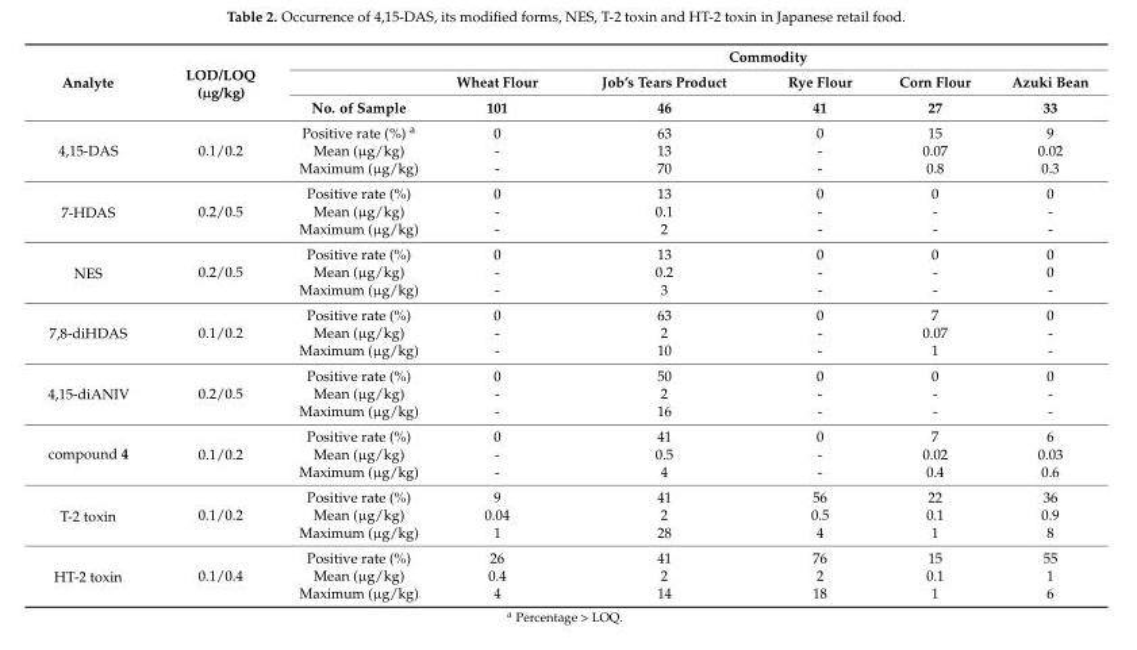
<table><thead><tr><td rowspan="3">Analyte</td><td rowspan="3">LOD/LOQ (µg/kg)</td><td rowspan="3">No. of Sample</td><td colspan="5">Commodity</td></tr><tr><td rowspan="2">Wheat Flour 101</td><td rowspan="2">Job’s Tears Product 46</td><td rowspan="2">Rye Flour 41</td><td rowspan="2">Corn Flour 27</td><td rowspan="2">Azuki Bean 33</td></tr><tr></tr></thead><tbody><tr><td rowspan="3">4,15-DAS</td><td></td><td>Positive rate (%) <sup>a</sup></td><td>0</td><td>63</td><td>0</td><td>15</td><td>9</td></tr><tr><td>0.1/0.2</td><td>Mean (µg/kg)</td><td>-</td><td>13</td><td>-</td><td>0.07</td><td>0.02</td></tr><tr><td></td><td>Maximum (µg/kg)</td><td>-</td><td>70</td><td>-</td><td>0.8</td><td>0.3</td></tr><tr><td rowspan="3">7-HDAS</td><td></td><td>Positive rate (%)</td><td>0</td><td>13</td><td>0</td><td>0</td><td>0</td></tr><tr><td>0.2/0.5</td><td>Mean (µg/kg)</td><td>-</td><td>0.1</td><td>-</td><td>-</td><td>-</td></tr><tr><td></td><td>Maximum (µg/kg)</td><td>-</td><td>2</td><td>-</td><td>-</td><td>-</td></tr><tr><td rowspan="3">NES</td><td></td><td>Positive rate (%)</td><td>0</td><td>13</td><td>0</td><td>0</td><td>0</td></tr><tr><td>0.2/0.5</td><td>Mean (µg/kg)</td><td>-</td><td>0.2</td><td>-</td><td>-</td><td>0</td></tr><tr><td></td><td>Maximum (µg/kg)</td><td>-</td><td>3</td><td>-</td><td>-</td><td>-</td></tr><tr><td rowspan="3">7,8-diHDAS</td><td></td><td>Positive rate (%)</td><td>0</td><td>63</td><td>0</td><td>7</td><td>0</td></tr><tr><td>0.1/0.2</td><td>Mean (µg/kg)</td><td>-</td><td>2</td><td>-</td><td>0.07</td><td>-</td></tr><tr><td></td><td>Maximum (µg/kg)</td><td>-</td><td>10</td><td>-</td><td>1</td><td>-</td></tr><tr><td rowspan="3">4,15-diANIV</td><td></td><td>Positive rate (%)</td><td>0</td><td>50</td><td>0</td><td>0</td><td>0</td></tr><tr><td>0.2/0.5</td><td>Mean (µg/kg)</td><td>-</td><td>2</td><td>-</td><td>-</td><td>-</td></tr><tr><td></td><td>Maximum (µg/kg)</td><td>-</td><td>16</td><td>-</td><td>-</td><td>-</td></tr><tr><td rowspan="3">compound 4</td><td></td><td>Positive rate (%)</td><td>0</td><td>41</td><td>0</td><td>7</td><td>6</td></tr><tr><td>0.1/0.2</td><td>Mean (µg/kg)</td><td>-</td><td>0.5</td><td>-</td><td>0.02</td><td>0.03</td></tr><tr><td></td><td>Maximum (µg/kg)</td><td>-</td><td>4</td><td>-</td><td>0.4</td><td>0.6</td></tr><tr><td rowspan="3">T-2 toxin</td><td></td><td>Positive rate (%)</td><td>9</td><td>41</td><td>56</td><td>22</td><td>36</td></tr><tr><td>0.1/0.2</td><td>Mean (µg/kg)</td><td>0.04</td><td>2</td><td>0.5</td><td>0.1</td><td>0.9</td></tr><tr><td></td><td>Maximum (µg/kg)</td><td>1</td><td>28</td><td>4</td><td>1</td><td>8</td></tr><tr><td rowspan="3">HT-2 toxin</td><td></td><td>Positive rate (%)</td><td>26</td><td>41</td><td>76</td><td>15</td><td>55</td></tr><tr><td>0.1/0.4</td><td>Mean (µg/kg)</td><td>0.4</td><td>2</td><td>2</td><td>0.1</td><td>1</td></tr><tr><td></td><td>Maximum (µg/kg)</td><td>4</td><td>14</td><td>18</td><td>1</td><td>6</td></tr></tbody></table>